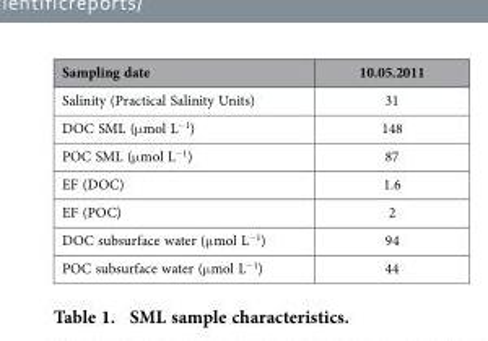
<table><thead><tr><td>Sampling date</td><td>10.05.2011</td></tr></thead><tbody><tr><td>Salinity (Practical Salinity Units)</td><td>31</td></tr><tr><td>DOC SML (μ mol L<sup>−1</sup>)</td><td>148</td></tr><tr><td>POC SML (μ mol L<sup>−1</sup>)</td><td>87</td></tr><tr><td>EF (DOC)</td><td>1.6</td></tr><tr><td>EF (POC)</td><td>2</td></tr><tr><td>DOC subsurface water (μ mol L<sup>−1</sup>)</td><td>94</td></tr><tr><td>POC subsurface water (μ mol L<sup>−1</sup>)</td><td>44</td></tr></tbody></table>